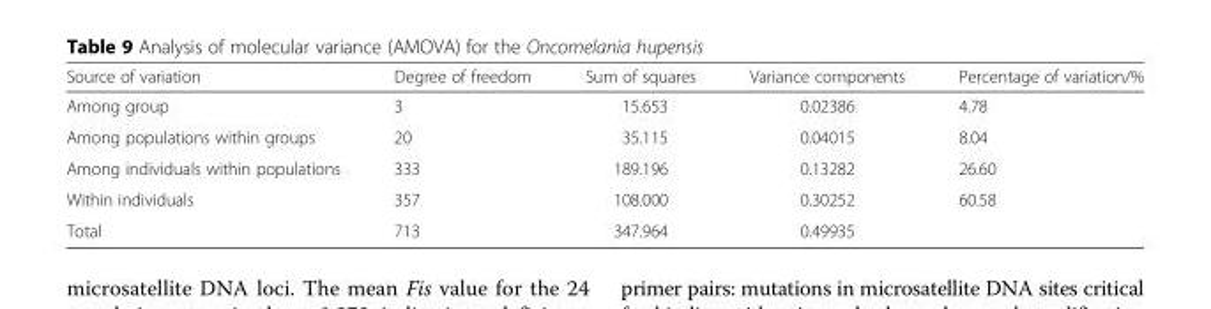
<table><thead><tr><td>Source of variation</td><td>Degree of freedom</td><td>Sum of squares</td><td>Variance components</td><td>Percentage of variation/%</td></tr></thead><tbody><tr><td>Among group</td><td>3</td><td>15.653</td><td>0.02386</td><td>4.78</td></tr><tr><td>Among populations within groups</td><td>20</td><td>35.115</td><td>0.04015</td><td>8.04</td></tr><tr><td>Among individuals within populations</td><td>333</td><td>189.196</td><td>0.13282</td><td>26.60</td></tr><tr><td>Within individuals</td><td>357</td><td>108.000</td><td>0.30252</td><td>60.58</td></tr><tr><td>Total</td><td>713</td><td>347.964</td><td>0.49935</td><td></td></tr></tbody></table>